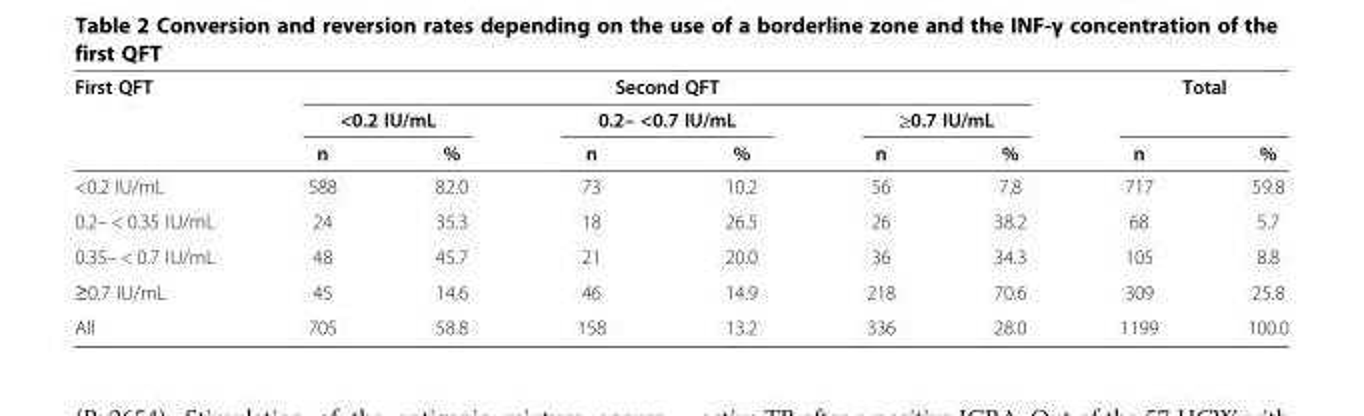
<table><thead><tr><td rowspan="3">First QFT</td><td colspan="6">Second QFT</td><td rowspan="2" colspan="2">Total</td></tr><tr><td colspan="2">&lt;0.2 IU/mL</td><td colspan="2">0.2– &lt;0.7 IU/mL</td><td colspan="2">≥0.7 IU/mL</td></tr><tr><td>n</td><td>%</td><td>n</td><td>%</td><td>n</td><td>%</td><td>n</td><td>%</td></tr></thead><tbody><tr><td>&lt;0.2 IU/mL</td><td>588</td><td>82.0</td><td>73</td><td>10.2</td><td>56</td><td>7.8</td><td>717</td><td>59.8</td></tr><tr><td>0.2– &lt; 0.35 IU/mL</td><td>24</td><td>35.3</td><td>18</td><td>26.5</td><td>26</td><td>38.2</td><td>68</td><td>5.7</td></tr><tr><td>0.35– &lt; 0.7 IU/mL</td><td>48</td><td>45.7</td><td>21</td><td>20.0</td><td>36</td><td>34.3</td><td>105</td><td>8.8</td></tr><tr><td>≥0.7 IU/mL</td><td>45</td><td>14.6</td><td>46</td><td>14.9</td><td>218</td><td>70.6</td><td>309</td><td>25.8</td></tr><tr><td>All</td><td>705</td><td>58.8</td><td>158</td><td>13.2</td><td>336</td><td>28.0</td><td>1199</td><td>100.0</td></tr></tbody></table>